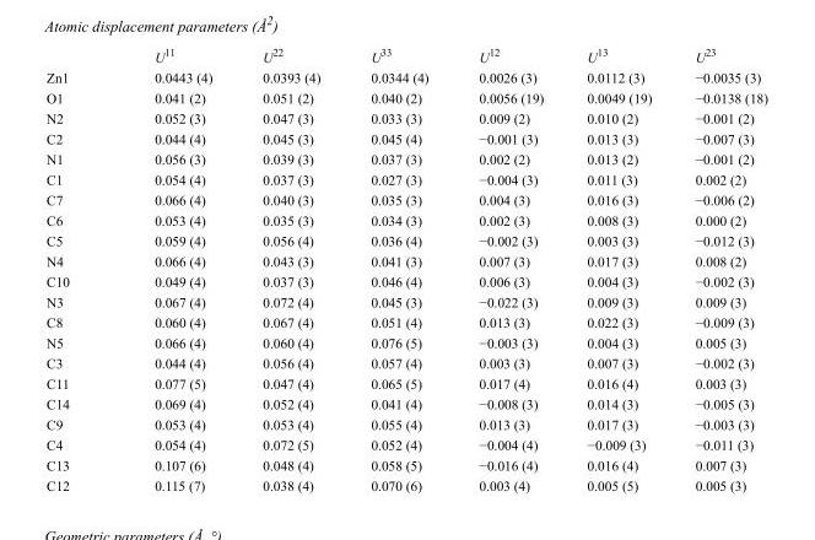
<table><thead><tr><td></td><td>U<sup>11</sup></td><td>U<sup>22</sup></td><td>U<sup>33</sup></td><td>U<sup>12</sup></td><td>U<sup>13</sup></td><td>U<sup>23</sup></td></tr></thead><tbody><tr><td>Zn1</td><td>0.0443 (4)</td><td>0.0393 (4)</td><td>0.0344 (4)</td><td>0.0026 (3)</td><td>0.0112 (3)</td><td>−0.0035 (3)</td></tr><tr><td>O1</td><td>0.041 (2)</td><td>0.051 (2)</td><td>0.040 (2)</td><td>0.0056 (19)</td><td>0.0049 (19)</td><td>−0.0138 (18)</td></tr><tr><td>N2</td><td>0.052 (3)</td><td>0.047 (3)</td><td>0.033 (3)</td><td>0.009 (2)</td><td>0.010 (2)</td><td>−0.001 (2)</td></tr><tr><td>C2</td><td>0.044 (4)</td><td>0.045 (3)</td><td>0.045 (4)</td><td>−0.001 (3)</td><td>0.013 (3)</td><td>−0.007 (3)</td></tr><tr><td>N1</td><td>0.056 (3)</td><td>0.039 (3)</td><td>0.037 (3)</td><td>0.002 (2)</td><td>0.013 (2)</td><td>−0.001 (2)</td></tr><tr><td>C1</td><td>0.054 (4)</td><td>0.037 (3)</td><td>0.027 (3)</td><td>−0.004 (3)</td><td>0.011 (3)</td><td>0.002 (2)</td></tr><tr><td>C7</td><td>0.066 (4)</td><td>0.040 (3)</td><td>0.035 (3)</td><td>0.004 (3)</td><td>0.016 (3)</td><td>−0.006 (2)</td></tr><tr><td>C6</td><td>0.053 (4)</td><td>0.035 (3)</td><td>0.034 (3)</td><td>0.002 (3)</td><td>0.008 (3)</td><td>0.000 (2)</td></tr><tr><td>C5</td><td>0.059 (4)</td><td>0.056 (4)</td><td>0.036 (4)</td><td>−0.002 (3)</td><td>0.003 (3)</td><td>−0.012 (3)</td></tr><tr><td>N4</td><td>0.066 (4)</td><td>0.043 (3)</td><td>0.041 (3)</td><td>0.007 (3)</td><td>0.017 (3)</td><td>0.008 (2)</td></tr><tr><td>C10</td><td>0.049 (4)</td><td>0.037 (3)</td><td>0.046 (4)</td><td>0.006 (3)</td><td>0.004 (3)</td><td>−0.002 (3)</td></tr><tr><td>N3</td><td>0.067 (4)</td><td>0.072 (4)</td><td>0.045 (3)</td><td>−0.022 (3)</td><td>0.009 (3)</td><td>0.009 (3)</td></tr><tr><td>C8</td><td>0.060 (4)</td><td>0.067 (4)</td><td>0.051 (4)</td><td>0.013 (3)</td><td>0.022 (3)</td><td>−0.009 (3)</td></tr><tr><td>N5</td><td>0.066 (4)</td><td>0.060 (4)</td><td>0.076 (5)</td><td>−0.003 (3)</td><td>0.004 (3)</td><td>0.005 (3)</td></tr><tr><td>C3</td><td>0.044 (4)</td><td>0.056 (4)</td><td>0.057 (4)</td><td>0.003 (3)</td><td>0.007 (3)</td><td>−0.002 (3)</td></tr><tr><td>C11</td><td>0.077 (5)</td><td>0.047 (4)</td><td>0.065 (5)</td><td>0.017 (4)</td><td>0.016 (4)</td><td>0.003 (3)</td></tr><tr><td>C14</td><td>0.069 (4)</td><td>0.052 (4)</td><td>0.041 (4)</td><td>−0.008 (3)</td><td>0.014 (3)</td><td>−0.005 (3)</td></tr><tr><td>C9</td><td>0.053 (4)</td><td>0.053 (4)</td><td>0.055 (4)</td><td>0.013 (3)</td><td>0.017 (3)</td><td>−0.003 (3)</td></tr><tr><td>C4</td><td>0.054 (4)</td><td>0.072 (5)</td><td>0.052 (4)</td><td>−0.004 (4)</td><td>−0.009 (3)</td><td>−0.011 (3)</td></tr><tr><td>C13</td><td>0.107 (6)</td><td>0.048 (4)</td><td>0.058 (5)</td><td>−0.016 (4)</td><td>0.016 (4)</td><td>0.007 (3)</td></tr><tr><td>C12</td><td>0.115 (7)</td><td>0.038 (4)</td><td>0.070 (6)</td><td>0.003 (4)</td><td>0.005 (5)</td><td>0.005 (3)</td></tr></tbody></table>